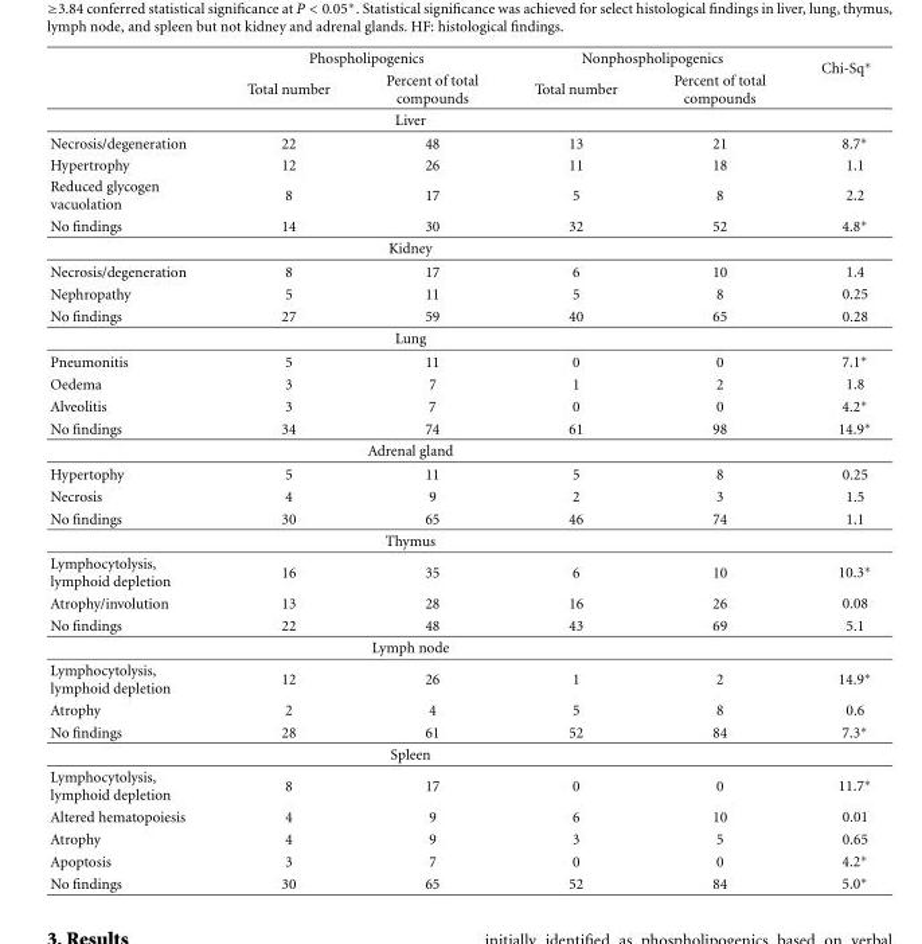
<table><thead><tr><td rowspan="2"></td><td colspan="2">Phospholipogenics</td><td colspan="2">Nonphospholipogenics</td><td rowspan="2">Chi-Sq∗</td></tr><tr><td>Total number</td><td>Percent of total compounds</td><td>Total number</td><td>Percent of total compounds</td></tr></thead><tbody><tr><td colspan="6">Liver</td></tr><tr><td>Necrosis/degeneration</td><td>22</td><td>48</td><td>13</td><td>21</td><td>8.7∗</td></tr><tr><td>Hypertrophy</td><td>12</td><td>26</td><td>11</td><td>18</td><td>1.1</td></tr><tr><td>Reduced glycogen vacuolation</td><td>8</td><td>17</td><td>5</td><td>8</td><td>2.2</td></tr><tr><td>No findings</td><td>14</td><td>30</td><td>32</td><td>52</td><td>4.8∗</td></tr><tr><td colspan="6">Kidney</td></tr><tr><td>Necrosis/degeneration</td><td>8</td><td>17</td><td>6</td><td>10</td><td>1.4</td></tr><tr><td>Nephropathy</td><td>5</td><td>11</td><td>5</td><td>8</td><td>0.25</td></tr><tr><td>No findings</td><td>27</td><td>59</td><td>40</td><td>65</td><td>0.28</td></tr><tr><td colspan="6">Lung</td></tr><tr><td>Pneumonitis</td><td>5</td><td>11</td><td>0</td><td>0</td><td>7.1∗</td></tr><tr><td>Oedema</td><td>3</td><td>7</td><td>1</td><td>2</td><td>1.8</td></tr><tr><td>Alveolitis</td><td>3</td><td>7</td><td>0</td><td>0</td><td>4.2∗</td></tr><tr><td>No findings</td><td>34</td><td>74</td><td>61</td><td>98</td><td>14.9∗</td></tr><tr><td colspan="6">Adrenal gland</td></tr><tr><td>Hypertophy</td><td>5</td><td>11</td><td>5</td><td>8</td><td>0.25</td></tr><tr><td>Necrosis</td><td>4</td><td>9</td><td>2</td><td>3</td><td>1.5</td></tr><tr><td>No findings</td><td>30</td><td>65</td><td>46</td><td>74</td><td>1.1</td></tr><tr><td colspan="6">Thymus</td></tr><tr><td>Lymphocytolysis, lymphoid depletion</td><td>16</td><td>35</td><td>6</td><td>10</td><td>10.3∗</td></tr><tr><td>Atrophy/involution</td><td>13</td><td>28</td><td>16</td><td>26</td><td>0.08</td></tr><tr><td>No findings</td><td>22</td><td>48</td><td>43</td><td>69</td><td>5.1</td></tr><tr><td colspan="6">Lymph node</td></tr><tr><td>Lymphocytolysis, lymphoid depletion</td><td>12</td><td>26</td><td>1</td><td>2</td><td>14.9∗</td></tr><tr><td>Atrophy</td><td>2</td><td>4</td><td>5</td><td>8</td><td>0.6</td></tr><tr><td>No findings</td><td>28</td><td>61</td><td>52</td><td>84</td><td>7.3∗</td></tr><tr><td colspan="6">Spleen</td></tr><tr><td>Lymphocytolysis, lymphoid depletion</td><td>8</td><td>17</td><td>0</td><td>0</td><td>11.7∗</td></tr><tr><td>Altered hematopoiesis</td><td>4</td><td>9</td><td>6</td><td>10</td><td>0.01</td></tr><tr><td>Atrophy</td><td>4</td><td>9</td><td>3</td><td>5</td><td>0.65</td></tr><tr><td>Apoptosis</td><td>3</td><td>7</td><td>0</td><td>0</td><td>4.2∗</td></tr><tr><td>No findings</td><td>30</td><td>65</td><td>52</td><td>84</td><td>5.0∗</td></tr></tbody></table>